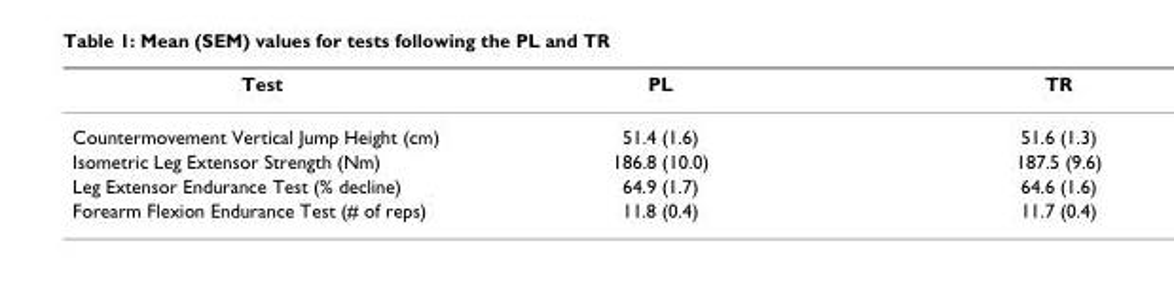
<table><thead><tr><td>Test</td><td>PL</td><td>TR</td></tr></thead><tbody><tr><td>Countermovement Vertical Jump Height (cm)</td><td>51.4 (1.6)</td><td>51.6 (1.3)</td></tr><tr><td>Isometric Leg Extensor Strength (Nm)</td><td>186.8 (10.0)</td><td>187.5 (9.6)</td></tr><tr><td>Leg Extensor Endurance Test (% decline)</td><td>64.9 (1.7)</td><td>64.6 (1.6)</td></tr><tr><td>Forearm Flexion Endurance Test (# of reps)</td><td>11.8 (0.4)</td><td>11.7 (0.4)</td></tr></tbody></table>